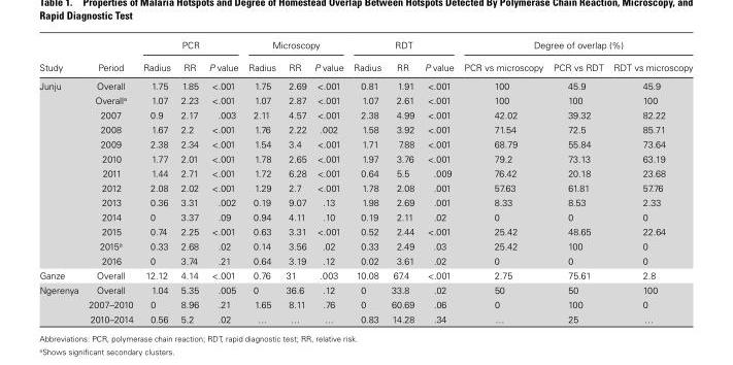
<table><thead><tr><td rowspan="2">Study</td><td rowspan="2">Period</td><td colspan="3">PCR</td><td colspan="3">Microscopy</td><td colspan="3">RDT</td><td colspan="3">Degree of overlap (%)</td></tr><tr><td>Radius</td><td>RR</td><td>P value</td><td>Radius</td><td>RR</td><td>P value</td><td>Radius</td><td>RR</td><td>P value</td><td>PCR vs microscopy</td><td>PCR vs RDT</td><td>RDT vs microscopy</td></tr></thead><tbody><tr><td rowspan="13">Junju</td><td>Overall</td><td>1.75</td><td>1.85</td><td>&lt;.001</td><td>1.75</td><td>2.69</td><td>&lt;.001</td><td>0.81</td><td>1.91</td><td>&lt;.001</td><td>100</td><td>45.9</td><td>45.9</td></tr><tr><td>Overall<sup>a</sup></td><td>1.07</td><td>2.23</td><td>&lt;.001</td><td>1.07</td><td>2.87</td><td>&lt;.001</td><td>1.07</td><td>2.61</td><td>&lt;.001</td><td>100</td><td>100</td><td>100</td></tr><tr><td>2007</td><td>0.9</td><td>2.17</td><td>.003</td><td>2.11</td><td>4.57</td><td>&lt;.001</td><td>2.38</td><td>4.99</td><td>&lt;.001</td><td>42.02</td><td>39.32</td><td>82.22</td></tr><tr><td>2008</td><td>1.67</td><td>2.2</td><td>&lt;.001</td><td>1.76</td><td>2.22</td><td>.002</td><td>1.58</td><td>3.92</td><td>&lt;.001</td><td>71.54</td><td>72.5</td><td>85.71</td></tr><tr><td>2009</td><td>2.38</td><td>2.34</td><td>&lt;.001</td><td>1.54</td><td>3.4</td><td>&lt;.001</td><td>1.71</td><td>7.88</td><td>&lt;.001</td><td>68.79</td><td>55.84</td><td>73.64</td></tr><tr><td>2010</td><td>1.77</td><td>2.01</td><td>&lt;.001</td><td>1.78</td><td>2.65</td><td>&lt;.001</td><td>1.97</td><td>3.76</td><td>&lt;.001</td><td>79.2</td><td>73.13</td><td>63.19</td></tr><tr><td>2011</td><td>1.44</td><td>2.71</td><td>&lt;.001</td><td>1.72</td><td>6.28</td><td>&lt;.001</td><td>0.64</td><td>5.5</td><td>.009</td><td>76.42</td><td>20.18</td><td>23.68</td></tr><tr><td>2012</td><td>2.08</td><td>2.02</td><td>&lt;.001</td><td>1.29</td><td>2.7</td><td>&lt;.001</td><td>1.78</td><td>2.08</td><td>.001</td><td>57.63</td><td>61.81</td><td>57.76</td></tr><tr><td>2013</td><td>0.36</td><td>3.31</td><td>.002</td><td>0.19</td><td>9.07</td><td>.13</td><td>1.98</td><td>2.69</td><td>.001</td><td>8.33</td><td>8.53</td><td>2.33</td></tr><tr><td>2014</td><td>0</td><td>3.37</td><td>.09</td><td>0.94</td><td>4.11</td><td>.10</td><td>0.19</td><td>2.11</td><td>.02</td><td>0</td><td>0</td><td>0</td></tr><tr><td>2015</td><td>0.74</td><td>2.25</td><td>&lt;.001</td><td>0.63</td><td>3.31</td><td>&lt;.001</td><td>0.52</td><td>2.44</td><td>&lt;.001</td><td>25.42</td><td>48.65</td><td>22.64</td></tr><tr><td>2015<sup>a</sup></td><td>0.33</td><td>2.68</td><td>.02</td><td>0.14</td><td>3.56</td><td>.02</td><td>0.33</td><td>2.49</td><td>.03</td><td>25.42</td><td>100</td><td>0</td></tr><tr><td>2016</td><td>0</td><td>3.74</td><td>.21</td><td>0.64</td><td>3.19</td><td>.12</td><td>0.02</td><td>3.61</td><td>.02</td><td>0</td><td>0</td><td>0</td></tr><tr><td>Ganze</td><td>Overall</td><td>12.12</td><td>4.14</td><td>&lt;.001</td><td>0.76</td><td>31</td><td>.003</td><td>10.08</td><td>67.4</td><td>&lt;.001</td><td>2.75</td><td>75.61</td><td>2.8</td></tr><tr><td rowspan="3">Ngerenya</td><td>Overall</td><td>1.04</td><td>5.35</td><td>.005</td><td>0</td><td>36.6</td><td>.12</td><td>0</td><td>33.8</td><td>.02</td><td>50</td><td>50</td><td>100</td></tr><tr><td>2007–2010</td><td>0</td><td>8.96</td><td>.21</td><td>1.65</td><td>8.11</td><td>.76</td><td>0</td><td>60.69</td><td>.06</td><td>0</td><td>100</td><td>0</td></tr><tr><td>2010–2014</td><td>0.56</td><td>5.2</td><td>.02</td><td>…</td><td>…</td><td>…</td><td>0.83</td><td>14.28</td><td>.34</td><td>…</td><td>25</td><td>…</td></tr></tbody></table>